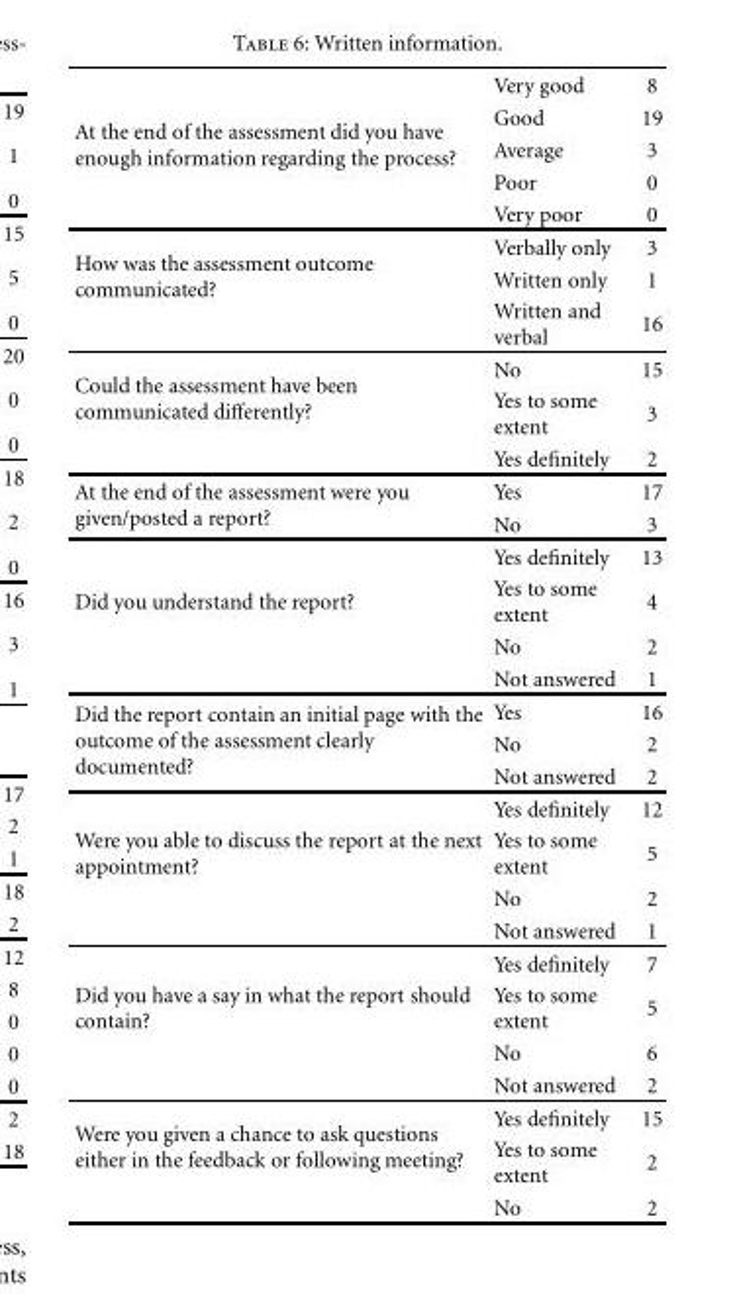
<table><tbody><tr><td rowspan="5">At the end of the assessment did you have enough information regarding the process?</td><td>Very good</td><td>8</td></tr><tr><td>Good</td><td>19</td></tr><tr><td>Average</td><td>3</td></tr><tr><td>Poor</td><td>0</td></tr><tr><td>Very poor</td><td>0</td></tr><tr><td rowspan="3">How was the assessment outcome communicated?</td><td>Verbally only</td><td>3</td></tr><tr><td>Written only</td><td>1</td></tr><tr><td>Written and verbal</td><td>16</td></tr><tr><td rowspan="3">Could the assessment have been communicated differently?</td><td>No</td><td>15</td></tr><tr><td>Yes to some extent</td><td>3</td></tr><tr><td>Yes definitely</td><td>2</td></tr><tr><td rowspan="2">At the end of the assessment were you given/posted a report?</td><td>Yes</td><td>17</td></tr><tr><td>No</td><td>3</td></tr><tr><td rowspan="4">Did you understand the report?</td><td>Yes definitely</td><td>13</td></tr><tr><td>Yes to some extent</td><td>4</td></tr><tr><td>No</td><td>2</td></tr><tr><td>Not answered</td><td>1</td></tr><tr><td rowspan="3">Did the report contain an initial page with the outcome of the assessment clearly documented?</td><td>Yes</td><td>16</td></tr><tr><td>No</td><td>2</td></tr><tr><td>Not answered</td><td>2</td></tr><tr><td rowspan="4">Were you able to discuss the report at the next appointment?</td><td>Yes definitely</td><td>12</td></tr><tr><td>Yes to some extent</td><td>5</td></tr><tr><td>No</td><td>2</td></tr><tr><td>Not answered</td><td>1</td></tr><tr><td rowspan="4">Did you have a say in what the report should contain?</td><td>Yes definitely</td><td>7</td></tr><tr><td>Yes to some extent</td><td>5</td></tr><tr><td>No</td><td>6</td></tr><tr><td>Not answered</td><td>2</td></tr><tr><td rowspan="3">Were you given a chance to ask questions either in the feedback or following meeting?</td><td>Yes definitely</td><td>15</td></tr><tr><td>Yes to some extent</td><td>2</td></tr><tr><td>No</td><td>2</td></tr></tbody></table>